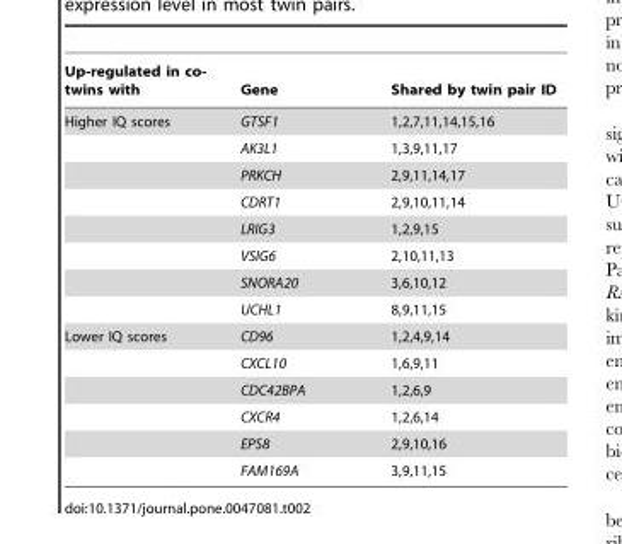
<table><thead><tr><td>Up-regulated in co- twins with</td><td>Gene</td><td>Shared by twin pair ID</td></tr></thead><tbody><tr><td rowspan="8">Higher IQ scores</td><td>GTSF1</td><td>1,2,7,11,14,15,16</td></tr><tr><td>AK3L1</td><td>1,3,9,11,17</td></tr><tr><td>PRKCH</td><td>2,9,11,14,17</td></tr><tr><td>CDRT1</td><td>2,9,10,11,14</td></tr><tr><td>LRIG3</td><td>1,2,9,15</td></tr><tr><td>VSIG6</td><td>2,10,11,13</td></tr><tr><td>SNORA20</td><td>3,6,10,12</td></tr><tr><td>UCHL1</td><td>8,9,11,15</td></tr><tr><td rowspan="6">Lower IQ scores</td><td>CD96</td><td>1,2,4,9,14</td></tr><tr><td>CXCL10</td><td>1,6,9,11</td></tr><tr><td>CDC42BPA</td><td>1,2,6,9</td></tr><tr><td>CXCR4</td><td>1,2,6,14</td></tr><tr><td>EPS8</td><td>2,9,10,16</td></tr><tr><td>FAM169A</td><td>3,9,11,15</td></tr></tbody></table>